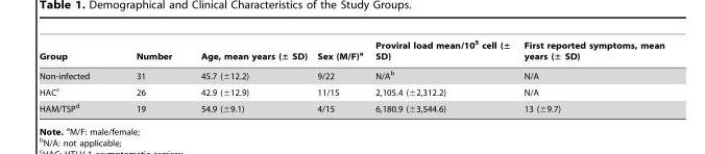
<table><thead><tr><td>Group</td><td>Number</td><td>Age, mean years (± SD)</td><td>Sex (M/F)<sup>a</sup></td><td>Proviral load mean/10<sup>5</sup> cell (± SD)</td><td>First reported symptoms, mean years (± SD)</td></tr></thead><tbody><tr><td>Non-infected</td><td>31</td><td>45.7 (±12.2)</td><td>9/22</td><td>N/A<sup>b</sup></td><td>N/A</td></tr><tr><td>HAC<sup>c</sup></td><td>26</td><td>42.9 (±12.9)</td><td>11/15</td><td>2,105.4 (±2,312.2)</td><td>N/A</td></tr><tr><td>HAM/TSP<sup>d</sup></td><td>19</td><td>54.9 (±9.1)</td><td>4/15</td><td>6,180.9 (±3,544.6)</td><td>13 (±9.7)</td></tr></tbody></table>